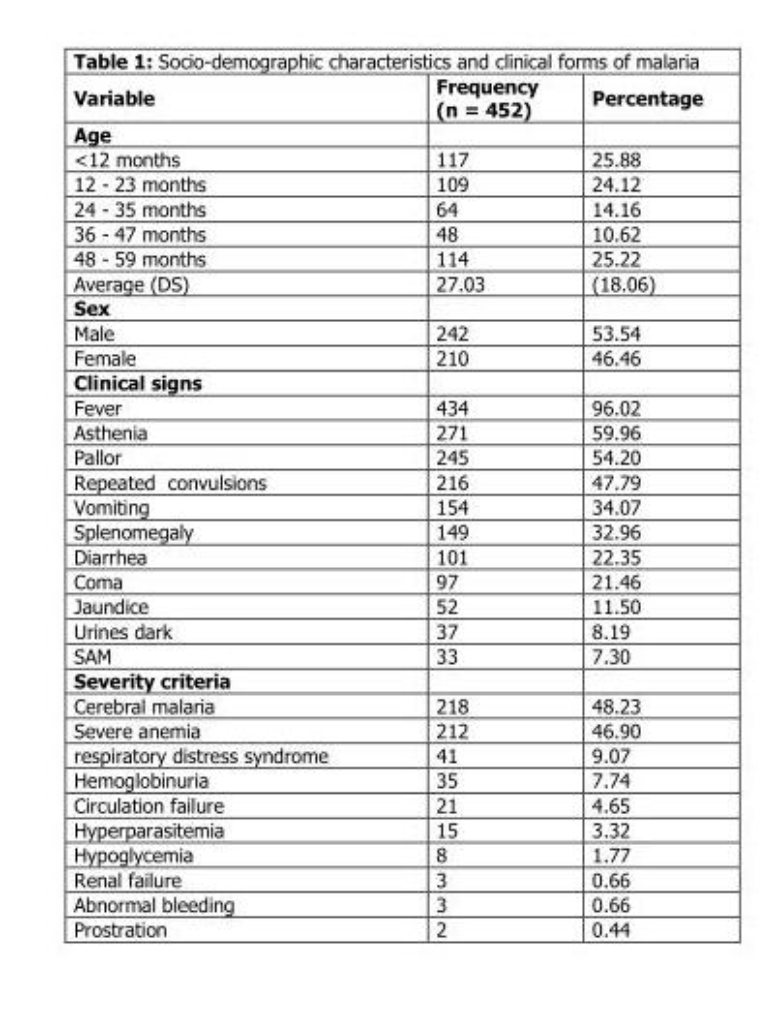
<table><thead><tr><td>Variable</td><td>Frequency (n = 452)</td><td>Percentage</td></tr></thead><tbody><tr><td colspan="3">Age</td></tr><tr><td>&lt;12 months</td><td>117</td><td>25.88</td></tr><tr><td>12 - 23 months</td><td>109</td><td>24.12</td></tr><tr><td>24 - 35 months</td><td>64</td><td>14.16</td></tr><tr><td>36 - 47 months</td><td>48</td><td>10.62</td></tr><tr><td>48 - 59 months</td><td>114</td><td>25.22</td></tr><tr><td>Average (DS)</td><td>27.03</td><td>(18.06)</td></tr><tr><td colspan="3">Sex</td></tr><tr><td>Male</td><td>242</td><td>53.54</td></tr><tr><td>Female</td><td>210</td><td>46.46</td></tr><tr><td colspan="3">Clinical signs</td></tr><tr><td>Fever</td><td>434</td><td>96.02</td></tr><tr><td>Asthenia</td><td>271</td><td>59.96</td></tr><tr><td>Pallor</td><td>245</td><td>54.20</td></tr><tr><td>Repeated convulsions</td><td>216</td><td>47.79</td></tr><tr><td>Vomiting</td><td>154</td><td>34.07</td></tr><tr><td>Splenomegaly</td><td>149</td><td>32.96</td></tr><tr><td>Diarrhea</td><td>101</td><td>22.35</td></tr><tr><td>Coma</td><td>97</td><td>21.46</td></tr><tr><td>Jaundice</td><td>52</td><td>11.50</td></tr><tr><td>Urines dark</td><td>37</td><td>8.19</td></tr><tr><td>SAM</td><td>33</td><td>7.30</td></tr><tr><td colspan="3">Severity criteria</td></tr><tr><td>Cerebral malaria</td><td>218</td><td>48.23</td></tr><tr><td>Severe anemia</td><td>212</td><td>46.90</td></tr><tr><td>respiratory distress syndrome</td><td>41</td><td>9.07</td></tr><tr><td>Hemoglobinuria</td><td>35</td><td>7.74</td></tr><tr><td>Circulation failure</td><td>21</td><td>4.65</td></tr><tr><td>Hyperparasitemia</td><td>15</td><td>3.32</td></tr><tr><td>Hypoglycemia</td><td>8</td><td>1.77</td></tr><tr><td>Renal failure</td><td>3</td><td>0.66</td></tr><tr><td>Abnormal bleeding</td><td>3</td><td>0.66</td></tr><tr><td>Prostration</td><td>2</td><td>0.44</td></tr></tbody></table>